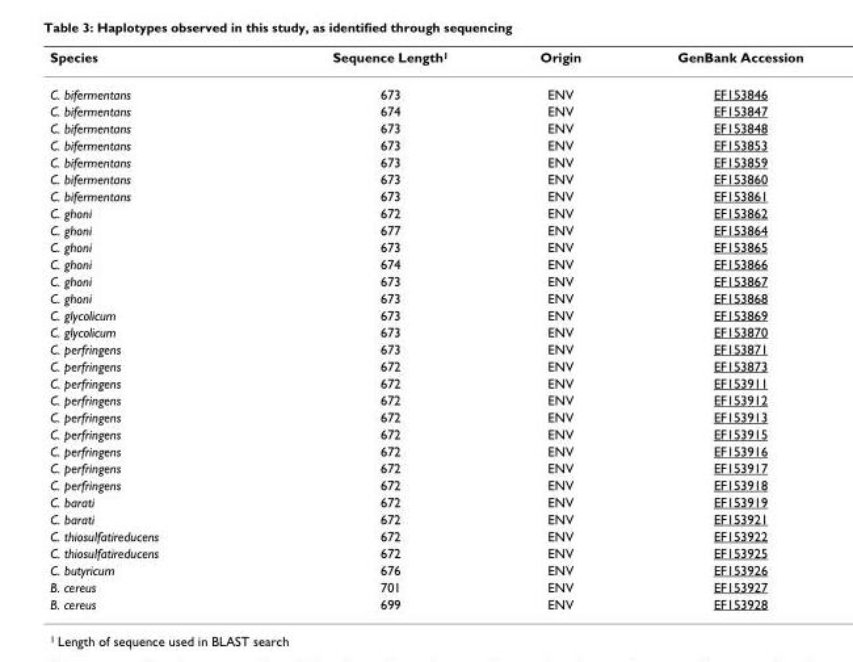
<table><thead><tr><td>Species</td><td>Sequence Length<sup>1</sup></td><td>Origin</td><td>GenBank Accession</td></tr></thead><tbody><tr><td>C. bifermentans</td><td>673</td><td>ENV</td><td>EF153846</td></tr><tr><td>C. bifermentans</td><td>674</td><td>ENV</td><td>EF153847</td></tr><tr><td>C. bifermentans</td><td>673</td><td>ENV</td><td>EF153848</td></tr><tr><td>C. bifermentans</td><td>673</td><td>ENV</td><td>EF153853</td></tr><tr><td>C. bifermentans</td><td>673</td><td>ENV</td><td>EF153859</td></tr><tr><td>C. bifermentans</td><td>673</td><td>ENV</td><td>EF153860</td></tr><tr><td>C. bifermentans</td><td>673</td><td>ENV</td><td>EF153861</td></tr><tr><td>C. ghoni</td><td>672</td><td>ENV</td><td>EF153862</td></tr><tr><td>C. ghoni</td><td>677</td><td>ENV</td><td>EF153864</td></tr><tr><td>C. ghoni</td><td>673</td><td>ENV</td><td>EF153865</td></tr><tr><td>C. ghoni</td><td>674</td><td>ENV</td><td>EF153866</td></tr><tr><td>C. ghoni</td><td>673</td><td>ENV</td><td>EF153867</td></tr><tr><td>C. ghoni</td><td>673</td><td>ENV</td><td>EF153868</td></tr><tr><td>C. glycolicum</td><td>673</td><td>ENV</td><td>EF153869</td></tr><tr><td>C. glycolicum</td><td>673</td><td>ENV</td><td>EF153870</td></tr><tr><td>C. perfringens</td><td>673</td><td>ENV</td><td>EF153871</td></tr><tr><td>C. perfringens</td><td>672</td><td>ENV</td><td>EF153873</td></tr><tr><td>C. perfringens</td><td>672</td><td>ENV</td><td>EF153911</td></tr><tr><td>C. perfringens</td><td>672</td><td>ENV</td><td>EF153912</td></tr><tr><td>C. perfringens</td><td>672</td><td>ENV</td><td>EF153913</td></tr><tr><td>C. perfringens</td><td>672</td><td>ENV</td><td>EF153915</td></tr><tr><td>C. perfringens</td><td>672</td><td>ENV</td><td>EF153916</td></tr><tr><td>C. perfringens</td><td>672</td><td>ENV</td><td>EF153917</td></tr><tr><td>C. perfringens</td><td>672</td><td>ENV</td><td>EF153918</td></tr><tr><td>C. barati</td><td>672</td><td>ENV</td><td>EF153919</td></tr><tr><td>C. barati</td><td>672</td><td>ENV</td><td>EF153921</td></tr><tr><td>C. thiosulfatireducens</td><td>672</td><td>ENV</td><td>EF153922</td></tr><tr><td>C. thiosulfatireducens</td><td>672</td><td>ENV</td><td>EF153925</td></tr><tr><td>C. butyricum</td><td>676</td><td>ENV</td><td>EF153926</td></tr><tr><td>B. cereus</td><td>701</td><td>ENV</td><td>EF153927</td></tr><tr><td>B. cereus</td><td>699</td><td>ENV</td><td>EF153928</td></tr></tbody></table>